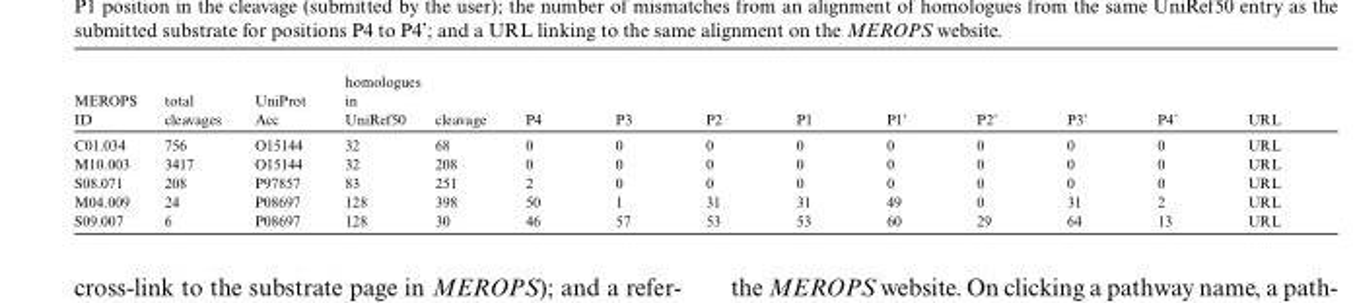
<table><thead><tr><td>MEROPS ID</td><td>total cleavages</td><td>UniProt Acc</td><td>homologues in UniRef50</td><td>cleavage</td><td>P4</td><td>P3</td><td>P2</td><td>P1</td><td>P1’</td><td>P2’</td><td>P3’</td><td>P4’</td><td>URL</td></tr></thead><tbody><tr><td>C01.034</td><td>756</td><td>O15144</td><td>32</td><td>68</td><td>0</td><td>0</td><td>0</td><td>0</td><td>0</td><td>0</td><td>0</td><td>0</td><td>URL</td></tr><tr><td>M10.003</td><td>3417</td><td>O15144</td><td>32</td><td>208</td><td>0</td><td>0</td><td>0</td><td>0</td><td>0</td><td>0</td><td>0</td><td>0</td><td>URL</td></tr><tr><td>S08.071</td><td>208</td><td>P97857</td><td>83</td><td>251</td><td>2</td><td>0</td><td>0</td><td>0</td><td>0</td><td>0</td><td>0</td><td>0</td><td>URL</td></tr><tr><td>M04.009</td><td>24</td><td>P08697</td><td>128</td><td>398</td><td>50</td><td>1</td><td>31</td><td>31</td><td>49</td><td>0</td><td>31</td><td>2</td><td>URL</td></tr><tr><td>S09.007</td><td>6</td><td>P08697</td><td>128</td><td>30</td><td>46</td><td>57</td><td>53</td><td>53</td><td>60</td><td>29</td><td>64</td><td>13</td><td>URL</td></tr></tbody></table>